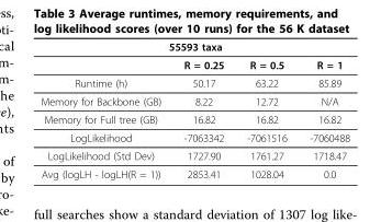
<table><thead><tr><td colspan="4">55593 taxa</td></tr><tr><td></td><td>R = 0.25</td><td>R = 0.5</td><td>R = 1</td></tr></thead><tbody><tr><td>Runtime (h)</td><td>50.17</td><td>63.22</td><td>85.89</td></tr><tr><td>Memory for Backbone (GB)</td><td>8.22</td><td>12.72</td><td>N/A</td></tr><tr><td>Memory for Full tree (GB)</td><td>16.82</td><td>16.82</td><td>16.82</td></tr><tr><td>LogLikelihood</td><td>-7063342</td><td>-7061516</td><td>-7060488</td></tr><tr><td>LogLikelihood (Std Dev)</td><td>1727.90</td><td>1761.27</td><td>1718.47</td></tr><tr><td>Avg (logLH - logLH(R = 1))</td><td>2853.41</td><td>1028.04</td><td>0.0</td></tr></tbody></table>